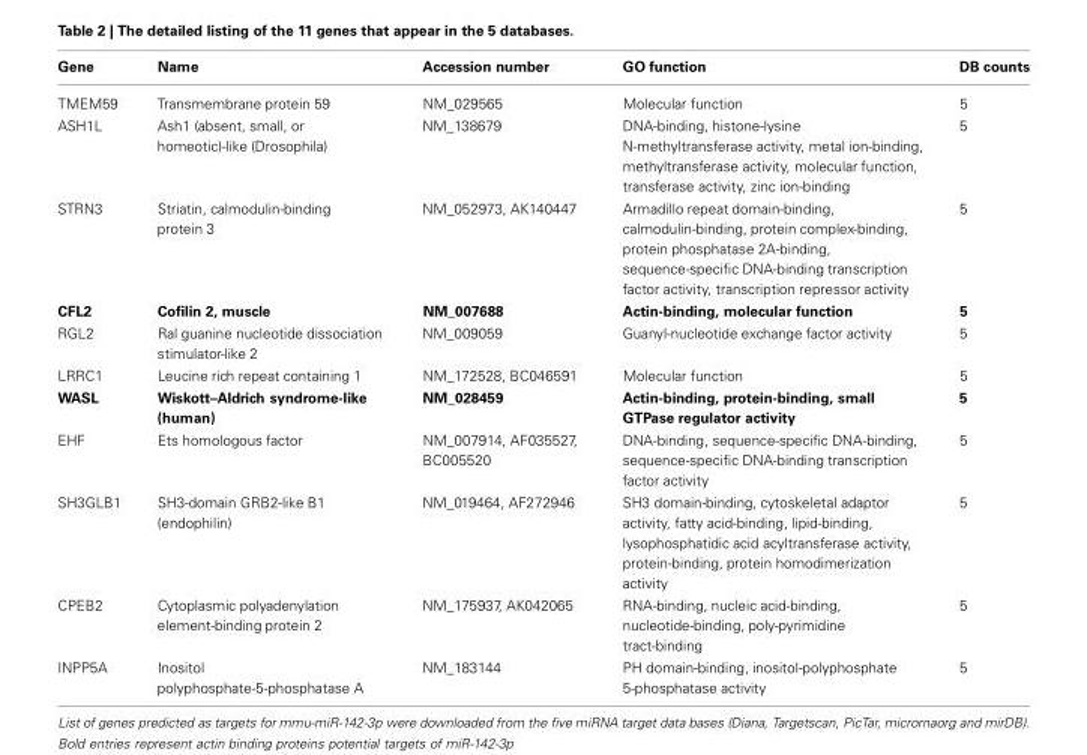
<table><thead><tr><td>Gene</td><td>Name</td><td>Accession number</td><td>GO function</td><td>DB counts</td></tr></thead><tbody><tr><td>TMEM59</td><td>Transmembrane protein 59</td><td>NM_029565</td><td>Molecular function</td><td>5</td></tr><tr><td>ASH1L</td><td>Ash1 (absent, small, or homeotic)-like (Drosophila)</td><td>NM_138679</td><td>DNA-binding, histone-lysine N-methyltransferase activity, metal ion-binding, methyltransferase activity, molecular function, transferase activity, zinc ion-binding</td><td>5</td></tr><tr><td>STRN3</td><td>Striatin, calmodulin-binding protein 3</td><td>NM_052973, AK140447</td><td>Armadillo repeat domain-binding, calmodulin-binding, protein complex-binding, protein phosphatase 2A-binding, sequence-specific DNA-binding transcription factor activity, transcription repressor activity</td><td>5</td></tr><tr><td>CFL2</td><td>Cofilin 2, muscle</td><td>NM_007688</td><td>Actin-binding, molecular function</td><td>5</td></tr><tr><td>RGL2</td><td>Ral guanine nucleotide dissociation stimulator-like 2</td><td>NM_009059</td><td>Guanyl-nucleotide exchange factor activity</td><td>5</td></tr><tr><td>LRRC1</td><td>Leucine rich repeat containing 1</td><td>NM_172528, BC046591</td><td>Molecular function</td><td>5</td></tr><tr><td>WASL</td><td>Wiskott–Aldrich syndrome-like (human)</td><td>NM_028459</td><td>Actin-binding, protein-binding, small GTPase regulator activity</td><td>5</td></tr><tr><td>EHF</td><td>Ets homologous factor</td><td>NM_007914, AF035527, BC005520</td><td>DNA-binding, sequence-specific DNA-binding, sequence-specific DNA-binding transcription factor activity</td><td>5</td></tr><tr><td>SH3GLB1</td><td>SH3-domain GRB2-like B1 (endophilin)</td><td>NM_019464, AF272946</td><td>SH3 domain-binding, cytoskeletal adaptor activity, fatty acid-binding, lipid-binding, lysophosphatidic acid acyltransferase activity, protein-binding, protein homodimerization activity</td><td>5</td></tr><tr><td>CPEB2</td><td>Cytoplasmic polyadenylation element-binding protein 2</td><td>NM_175937, AK042065</td><td>RNA-binding, nucleic acid-binding, nucleotide-binding, poly-pyrimidine tract-binding</td><td>5</td></tr><tr><td>INPP5A</td><td>Inositol polyphosphate-5-phosphatase A</td><td>NM_183144</td><td>PH domain-binding, inositol-polyphosphate 5-phosphatase activity</td><td>5</td></tr></tbody></table>